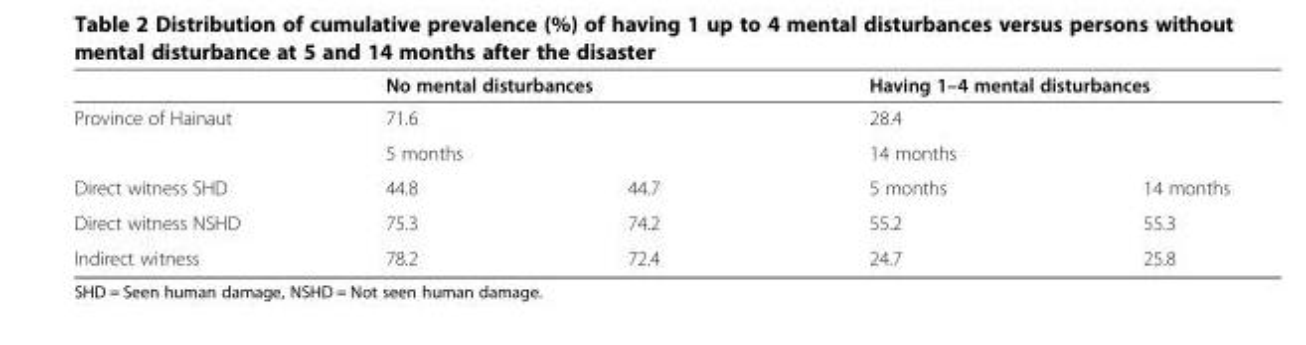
<table><thead><tr><td rowspan="4">Province of Hainaut Direct witness SHD</td><td rowspan="3" colspan="2">No mental disturbances 71.6 5 months</td><td rowspan="3" colspan="2">Having 1–4 mental disturbances 28.4 14 months</td></tr><tr></tr><tr></tr><tr><td>44.8</td><td>44.7</td><td>5 months</td><td>14 months</td></tr></thead><tbody><tr><td>Direct witness NSHD</td><td>75.3</td><td>74.2</td><td>55.2</td><td>55.3</td></tr><tr><td>Indirect witness</td><td>78.2</td><td>72.4</td><td>24.7</td><td>25.8</td></tr></tbody></table>